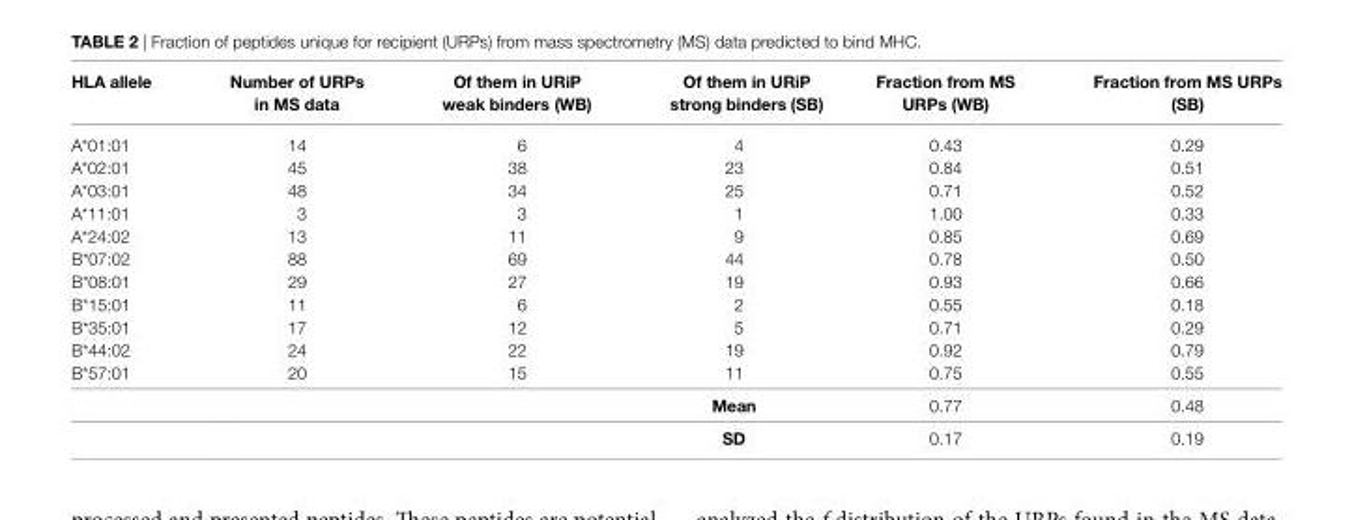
<table><thead><tr><td>hla allele</td><td>number of UrPs in Ms data</td><td>Of them in UriP weak binders (WB)</td><td>Of them in UriP strong binders (sB)</td><td>Fraction from Ms UrPs (WB)</td><td>Fraction from Ms UrPs (sB)</td></tr></thead><tbody><tr><td>A*01:01</td><td>14</td><td>6</td><td>4</td><td>0.43</td><td>0.29</td></tr><tr><td>A*02:01</td><td>45</td><td>38</td><td>23</td><td>0.84</td><td>0.51</td></tr><tr><td>A*03:01</td><td>48</td><td>34</td><td>25</td><td>0.71</td><td>0.52</td></tr><tr><td>A*11:01</td><td>3</td><td>3</td><td>1</td><td>1.00</td><td>0.33</td></tr><tr><td>A*24:02</td><td>13</td><td>11</td><td>9</td><td>0.85</td><td>0.69</td></tr><tr><td>B*07:02</td><td>88</td><td>69</td><td>44</td><td>0.78</td><td>0.50</td></tr><tr><td>B*08:01</td><td>29</td><td>27</td><td>19</td><td>0.93</td><td>0.66</td></tr><tr><td>B*15:01</td><td>11</td><td>6</td><td>2</td><td>0.55</td><td>0.18</td></tr><tr><td>B*35:01</td><td>17</td><td>12</td><td>5</td><td>0.71</td><td>0.29</td></tr><tr><td>B*44:02</td><td>24</td><td>22</td><td>19</td><td>0.92</td><td>0.79</td></tr><tr><td rowspan="3">B*57:01</td><td>20</td><td>15</td><td>11</td><td>0.75</td><td>0.55</td></tr><tr><td></td><td></td><td>Mean</td><td>0.77</td><td>0.48</td></tr><tr><td></td><td></td><td>sD</td><td>0.17</td><td>0.19</td></tr></tbody></table>